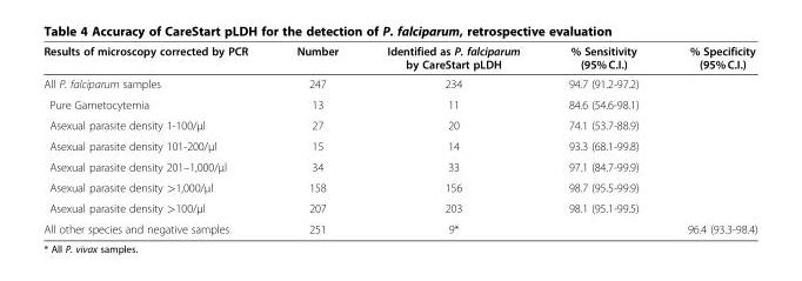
<table><thead><tr><td>Results of microscopy corrected by PCR</td><td>Number</td><td>Identified as P. falciparum by CareStart pLDH</td><td>% Sensitivity (95% C.I.)</td><td>% Specificity (95% C.I.)</td></tr></thead><tbody><tr><td>All P. falciparum samples</td><td>247</td><td>234</td><td>94.7 (91.2-97.2)</td><td></td></tr><tr><td>Pure Gametocytemia</td><td>13</td><td>11</td><td>84.6 (54.6-98.1)</td><td></td></tr><tr><td>Asexual parasite density 1-100/μl</td><td>27</td><td>20</td><td>74.1 (53.7-88.9)</td><td></td></tr><tr><td>Asexual parasite density 101-200/μl</td><td>15</td><td>14</td><td>93.3 (68.1-99.8)</td><td></td></tr><tr><td>Asexual parasite density 201–1,000/μl</td><td>34</td><td>33</td><td>97.1 (84.7-99.9)</td><td></td></tr><tr><td>Asexual parasite density &gt;1,000/μl</td><td>158</td><td>156</td><td>98.7 (95.5-99.9)</td><td></td></tr><tr><td>Asexual parasite density &gt;100/μl</td><td>207</td><td>203</td><td>98.1 (95.1-99.5)</td><td></td></tr><tr><td>All other species and negative samples</td><td>251</td><td>9*</td><td></td><td>96.4 (93.3-98.4)</td></tr></tbody></table>